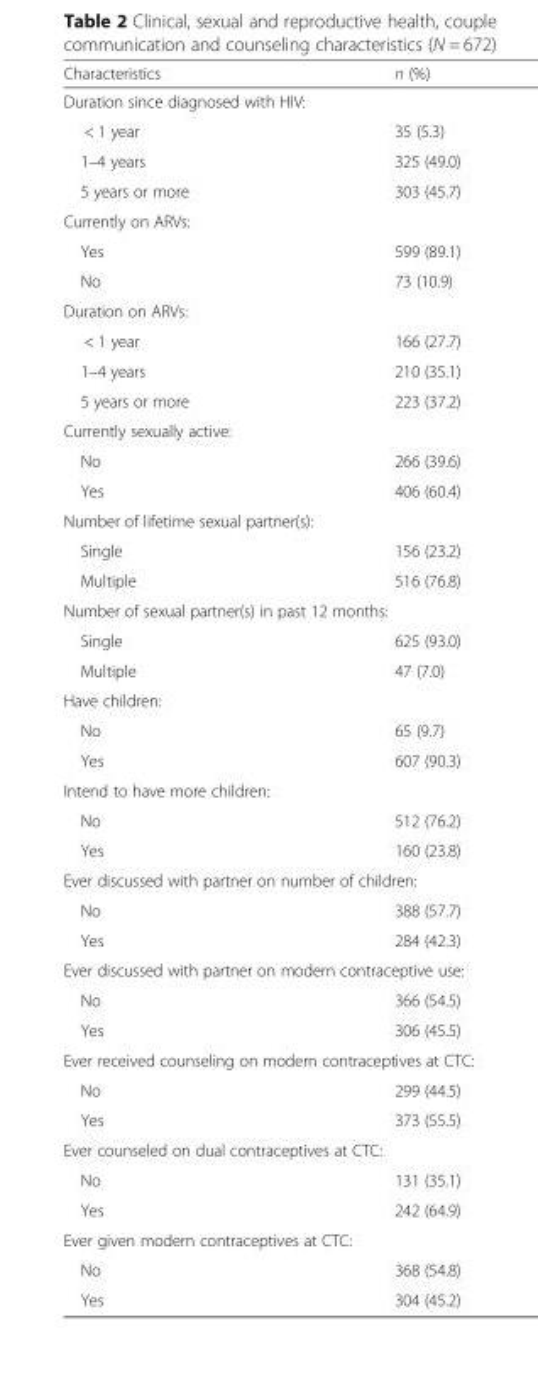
<table><thead><tr><td>Characteristics</td><td>n (%)</td></tr></thead><tbody><tr><td colspan="2">Duration since diagnosed with HIV:</td></tr><tr><td>&lt; 1 year</td><td>35 (5.3)</td></tr><tr><td>1–4 years</td><td>325 (49.0)</td></tr><tr><td>5 years or more</td><td>303 (45.7)</td></tr><tr><td colspan="2">Currently on ARVs:</td></tr><tr><td>Yes</td><td>599 (89.1)</td></tr><tr><td>No</td><td>73 (10.9)</td></tr><tr><td colspan="2">Duration on ARVs:</td></tr><tr><td>&lt; 1 year</td><td>166 (27.7)</td></tr><tr><td>1–4 years</td><td>210 (35.1)</td></tr><tr><td>5 years or more</td><td>223 (37.2)</td></tr><tr><td colspan="2">Currently sexually active:</td></tr><tr><td>No</td><td>266 (39.6)</td></tr><tr><td>Yes</td><td>406 (60.4)</td></tr><tr><td colspan="2">Number of lifetime sexual partner(s):</td></tr><tr><td>Single</td><td>156 (23.2)</td></tr><tr><td>Multiple</td><td>516 (76.8)</td></tr><tr><td colspan="2">Number of sexual partner(s) in past 12 months:</td></tr><tr><td>Single</td><td>625 (93.0)</td></tr><tr><td>Multiple</td><td>47 (7.0)</td></tr><tr><td colspan="2">Have children:</td></tr><tr><td>No</td><td>65 (9.7)</td></tr><tr><td>Yes</td><td>607 (90.3)</td></tr><tr><td colspan="2">Intend to have more children:</td></tr><tr><td>No</td><td>512 (76.2)</td></tr><tr><td>Yes</td><td>160 (23.8)</td></tr><tr><td colspan="2">Ever discussed with partner on number of children:</td></tr><tr><td>No</td><td>388 (57.7)</td></tr><tr><td>Yes</td><td>284 (42.3)</td></tr><tr><td colspan="2">Ever discussed with partner on modern contraceptive use:</td></tr><tr><td>No</td><td>366 (54.5)</td></tr><tr><td>Yes</td><td>306 (45.5)</td></tr><tr><td colspan="2">Ever received counseling on modern contraceptives at CTC:</td></tr><tr><td>No</td><td>299 (44.5)</td></tr><tr><td>Yes</td><td>373 (55.5)</td></tr><tr><td colspan="2">Ever counseled on dual contraceptives at CTC:</td></tr><tr><td>No</td><td>131 (35.1)</td></tr><tr><td>Yes</td><td>242 (64.9)</td></tr><tr><td colspan="2">Ever given modern contraceptives at CTC:</td></tr><tr><td>No</td><td>368 (54.8)</td></tr><tr><td>Yes</td><td>304 (45.2)</td></tr></tbody></table>